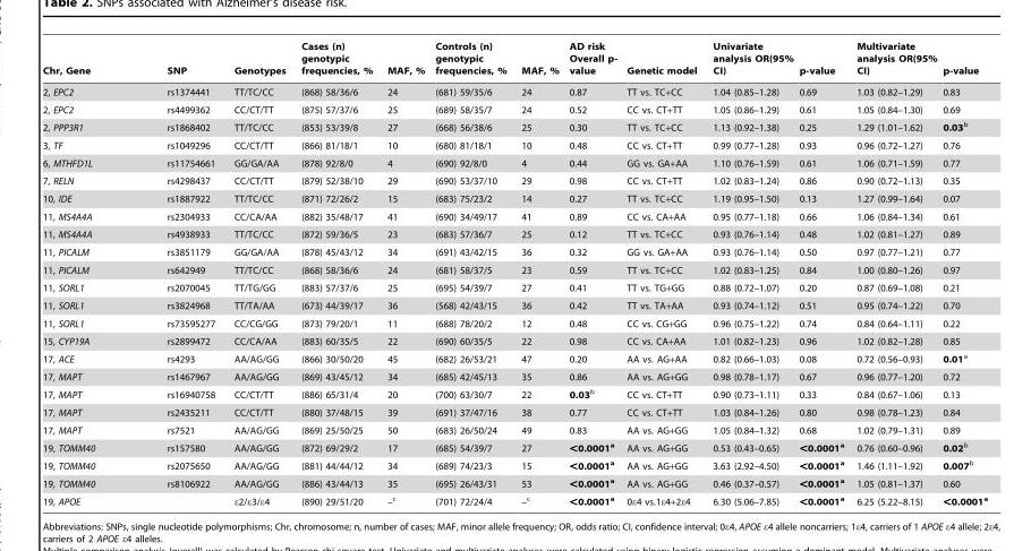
<table><thead><tr><td>Chr, Gene</td><td>SNP</td><td>Genotypes</td><td>Cases (n) genotypic frequencies, %</td><td>MAF, %</td><td>Controls (n) genotypic frequencies, %</td><td>MAF, %</td><td>AD risk Overall p- value</td><td>Genetic model</td><td>Univariate analysis OR(95% CI)</td><td>p-value</td><td>Multivariate analysis OR(95% CI)</td><td>p-value</td></tr></thead><tbody><tr><td>2, EPC2</td><td>rs1374441</td><td>TT/TC/CC</td><td>(868) 58/36/6</td><td>24</td><td>(681) 59/35/6</td><td>24</td><td>0.87</td><td>TT vs. TC+CC</td><td>1.04 (0.85–1.28)</td><td>0.69</td><td>1.03 (0.82–1.29)</td><td>0.83</td></tr><tr><td>2, EPC2</td><td>rs4499362</td><td>CC/CT/TT</td><td>(875) 57/37/6</td><td>25</td><td>(689) 58/35/7</td><td>24</td><td>0.52</td><td>CC vs. CT+TT</td><td>1.05 (0.86–1.29)</td><td>0.61</td><td>1.05 (0.84–1.30)</td><td>0.69</td></tr><tr><td>2, PPP3R1</td><td>rs1868402</td><td>TT/TC/CC</td><td>(853) 53/39/8</td><td>27</td><td>(668) 56/38/6</td><td>25</td><td>0.30</td><td>TT vs. TC+CC</td><td>1.13 (0.92–1.38)</td><td>0.25</td><td>1.29 (1.01–1.62)</td><td>0.03b</td></tr><tr><td>3, TF</td><td>rs1049296</td><td>CC/CT/TT</td><td>(866) 81/18/1</td><td>10</td><td>(680) 81/18/1</td><td>10</td><td>0.48</td><td>CC vs. CT+TT</td><td>0.99 (0.77–1.28)</td><td>0.93</td><td>0.96 (0.72–1.27)</td><td>0.76</td></tr><tr><td>6, MTHFD1L</td><td>rs11754661</td><td>GG/GA/AA</td><td>(878) 92/8/0</td><td>4</td><td>(690) 92/8/0</td><td>4</td><td>0.44</td><td>GG vs. GA+AA</td><td>1.10 (0.76–1.59)</td><td>0.61</td><td>1.06 (0.71–1.59)</td><td>0.77</td></tr><tr><td>7, RELN</td><td>rs4298437</td><td>CC/CT/TT</td><td>(879) 52/38/10</td><td>29</td><td>(690) 53/37/10</td><td>29</td><td>0.98</td><td>CC vs. CT+TT</td><td>1.02 (0.83–1.24)</td><td>0.86</td><td>0.90 (0.72–1.13)</td><td>0.35</td></tr><tr><td>10, IDE</td><td>rs1887922</td><td>TT/TC/CC</td><td>(871) 72/26/2</td><td>15</td><td>(683) 75/23/2</td><td>14</td><td>0.27</td><td>TT vs. TC+CC</td><td>1.19 (0.95–1.50)</td><td>0.13</td><td>1.27 (0.99–1.64)</td><td>0.07</td></tr><tr><td>11, MS4A4A</td><td>rs2304933</td><td>CC/CA/AA</td><td>(882) 35/48/17</td><td>41</td><td>(690) 34/49/17</td><td>41</td><td>0.89</td><td>CC vs. CA+AA</td><td>0.95 (0.77–1.18)</td><td>0.66</td><td>1.06 (0.84–1.34)</td><td>0.61</td></tr><tr><td>11, MS4A4A</td><td>rs4938933</td><td>TT/TC/CC</td><td>(872) 59/36/5</td><td>23</td><td>(683) 57/36/7</td><td>25</td><td>0.12</td><td>TT vs. TC+CC</td><td>0.93 (0.76–1.14)</td><td>0.48</td><td>1.02 (0.81–1.27)</td><td>0.89</td></tr><tr><td>11, PICALM</td><td>rs3851179</td><td>GG/GA/AA</td><td>(878) 45/43/12</td><td>34</td><td>(691) 43/42/15</td><td>36</td><td>0.32</td><td>GG vs. GA+AA</td><td>0.93 (0.76–1.14)</td><td>0.50</td><td>0.97 (0.77–1.21)</td><td>0.77</td></tr><tr><td>11, PICALM</td><td>rs642949</td><td>TT/TC/CC</td><td>(868) 58/36/6</td><td>24</td><td>(681) 58/37/5</td><td>23</td><td>0.59</td><td>TT vs. TC+CC</td><td>1.02 (0.83–1.25)</td><td>0.84</td><td>1.00 (0.80–1.26)</td><td>0.97</td></tr><tr><td>11, SORL1</td><td>rs2070045</td><td>TT/TG/GG</td><td>(883) 57/37/6</td><td>25</td><td>(695) 54/39/7</td><td>27</td><td>0.41</td><td>TT vs. TG+GG</td><td>0.88 (0.72–1.07)</td><td>0.20</td><td>0.87 (0.69–1.08)</td><td>0.21</td></tr><tr><td>11, SORL1</td><td>rs3824968</td><td>TT/TA/AA</td><td>(673) 44/39/17</td><td>36</td><td>(568) 42/43/15</td><td>36</td><td>0.42</td><td>TT vs. TA+AA</td><td>0.93 (0.74–1.12)</td><td>0.51</td><td>0.95 (0.74–1.22)</td><td>0.70</td></tr><tr><td>11, SORL1</td><td>rs73595277</td><td>CC/CG/GG</td><td>(873) 79/20/1</td><td>11</td><td>(688) 78/20/2</td><td>12</td><td>0.48</td><td>CC vs. CG+GG</td><td>0.96 (0.75–1.22)</td><td>0.74</td><td>0.84 (0.64–1.11)</td><td>0.22</td></tr><tr><td>15, CYP19A</td><td>rs2899472</td><td>CC/CA/AA</td><td>(883) 60/35/5</td><td>22</td><td>(690) 60/35/5</td><td>22</td><td>0.98</td><td>CC vs. CA+AA</td><td>1.01 (0.82–1.23)</td><td>0.96</td><td>1.02 (0.82–1.28)</td><td>0.85</td></tr><tr><td>17, ACE</td><td>rs4293</td><td>AA/AG/GG</td><td>(866) 30/50/20</td><td>45</td><td>(682) 26/53/21</td><td>47</td><td>0.20</td><td>AA vs. AG+AA</td><td>0.82 (0.66–1.03)</td><td>0.08</td><td>0.72 (0.56–0.93)</td><td>0.01a</td></tr><tr><td>17, MAPT</td><td>rs1467967</td><td>AA/AG/GG</td><td>(869) 43/45/12</td><td>34</td><td>(685) 42/45/13</td><td>35</td><td>0.86</td><td>AA vs. AG+GG</td><td>0.98 (0.78–1.17)</td><td>0.67</td><td>0.96 (0.77–1.20)</td><td>0.72</td></tr><tr><td>17, MAPT</td><td>rs16940758</td><td>CC/CT/TT</td><td>(886) 65/31/4</td><td>20</td><td>(700) 63/30/7</td><td>22</td><td>0.03b</td><td>CC vs. CT+TT</td><td>0.90 (0.73–1.11)</td><td>0.33</td><td>0.84 (0.67–1.06)</td><td>0.13</td></tr><tr><td>17, MAPT</td><td>rs2435211</td><td>CC/CT/TT</td><td>(880) 37/48/15</td><td>39</td><td>(691) 37/47/16</td><td>38</td><td>0.77</td><td>CC vs. CT+TT</td><td>1.03 (0.84–1.26)</td><td>0.80</td><td>0.98 (0.78–1.23)</td><td>0.84</td></tr><tr><td>17, MAPT</td><td>rs7521</td><td>AA/AG/GG</td><td>(869) 25/50/25</td><td>50</td><td>(683) 26/50/24</td><td>49</td><td>0.83</td><td>AA vs. AG+GG</td><td>1.05 (0.84–1.32)</td><td>0.68</td><td>1.02 (0.79–1.31)</td><td>0.89</td></tr><tr><td>19, TOMM40</td><td>rs157580</td><td>AA/AG/GG</td><td>(872) 69/29/2</td><td>17</td><td>(685) 54/39/7</td><td>27</td><td>&lt;0.0001a</td><td>AA vs. AG+GG</td><td>0.53 (0.43–0.65)</td><td>&lt;0.0001a</td><td>0.76 (0.60–0.96)</td><td>0.02b</td></tr><tr><td>19, TOMM40</td><td>rs2075650</td><td>AA/AG/GG</td><td>(881) 44/44/12</td><td>34</td><td>(689) 74/23/3</td><td>15</td><td>&lt;0.0001a</td><td>AA vs. AG+GG</td><td>3.63 (2.92–4.50)</td><td>&lt;0.0001a</td><td>1.46 (1.11–1.92)</td><td>0.007b</td></tr><tr><td>19, TOMM40</td><td>rs8106922</td><td>AA/AG/GG</td><td>(886) 43/44/13</td><td>35</td><td>(695) 26/43/31</td><td>53</td><td>&lt;0.0001a</td><td>AA vs. AG+GG</td><td>0.46 (0.37–0.57)</td><td>&lt;0.0001a</td><td>1.05 (0.81–1.37)</td><td>0.60</td></tr><tr><td>19, APOE</td><td></td><td>ε2/ε3/ε4</td><td>(890) 29/51/20</td><td>–c</td><td>(701) 72/24/4</td><td>–c</td><td>&lt;0.0001a</td><td>0ε4 vs.1ε4+2ε4</td><td>6.30 (5.06–7.85)</td><td>&lt;0.0001a</td><td>6.25 (5.22–8.15)</td><td>&lt;0.0001a</td></tr></tbody></table>